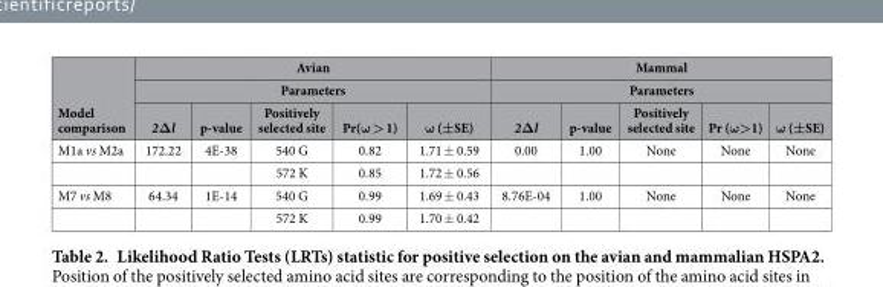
<table><thead><tr><td rowspan="3">Model comparison</td><td rowspan="2" colspan="5">Avian Parameters</td><td rowspan="2" colspan="5">Mammal Parameters</td></tr><tr></tr><tr><td>2Δl</td><td>p-value</td><td>Positively selected site</td><td>Pr(ω &gt; 1)</td><td>ω (±SE)</td><td>2Δl</td><td>p-value</td><td>Positively selected site</td><td>Pr (ω&gt;1)</td><td>ω (±SE)</td></tr></thead><tbody><tr><td rowspan="2">M1a vs M2a</td><td>172.22</td><td>4E-38</td><td>540 G</td><td>0.82</td><td>1.71 ± 0.59</td><td>0.00</td><td>1.00</td><td>None</td><td>None</td><td>None</td></tr><tr><td></td><td></td><td>572 K</td><td>0.85</td><td>1.72 ± 0.56</td><td></td><td></td><td></td><td></td><td></td></tr><tr><td rowspan="2">M7 vs M8</td><td>64.34</td><td>1E-14</td><td>540 G</td><td>0.99</td><td>1.69 ± 0.43</td><td>8.76E-04</td><td>1.00</td><td>None</td><td>None</td><td>None</td></tr><tr><td></td><td></td><td>572 K</td><td>0.99</td><td>1.70 ± 0.42</td><td></td><td></td><td></td><td></td><td></td></tr></tbody></table>